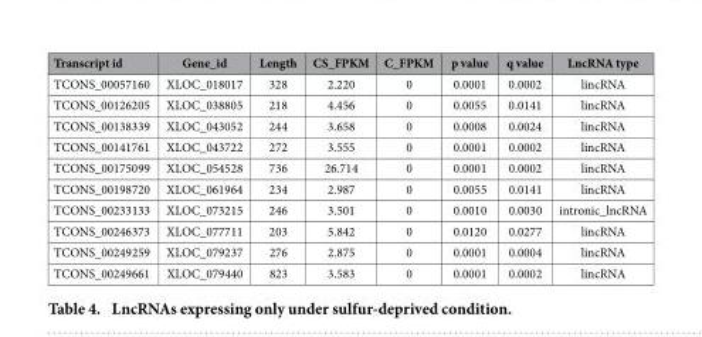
<table><thead><tr><td>Transcript id</td><td>Gene_id</td><td>Length</td><td>CS_FPKM</td><td>C_FPKM</td><td>p value</td><td>q value</td><td>LncRNA type</td></tr></thead><tbody><tr><td>TCONS_00057160</td><td>XLOC_018017</td><td>328</td><td>2.220</td><td>0</td><td>0.0001</td><td>0.0002</td><td>lincRNA</td></tr><tr><td>TCONS_00126205</td><td>XLOC_038805</td><td>218</td><td>4.456</td><td>0</td><td>0.0055</td><td>0.0141</td><td>lincRNA</td></tr><tr><td>TCONS_00138339</td><td>XLOC_043052</td><td>244</td><td>3.658</td><td>0</td><td>0.0008</td><td>0.0024</td><td>lincRNA</td></tr><tr><td>TCONS_00141761</td><td>XLOC_043722</td><td>272</td><td>3.555</td><td>0</td><td>0.0001</td><td>0.0002</td><td>lincRNA</td></tr><tr><td>TCONS_00175099</td><td>XLOC_054528</td><td>736</td><td>26.714</td><td>0</td><td>0.0001</td><td>0.0002</td><td>lincRNA</td></tr><tr><td>TCONS_00198720</td><td>XLOC_061964</td><td>234</td><td>2.987</td><td>0</td><td>0.0055</td><td>0.0141</td><td>lincRNA</td></tr><tr><td>TCONS_00233133</td><td>XLOC_073215</td><td>246</td><td>3.501</td><td>0</td><td>0.0010</td><td>0.0030</td><td>intronic_lncRNA</td></tr><tr><td>TCONS_00246373</td><td>XLOC_077711</td><td>203</td><td>5.842</td><td>0</td><td>0.0120</td><td>0.0277</td><td>lincRNA</td></tr><tr><td>TCONS_00249259</td><td>XLOC_079237</td><td>276</td><td>2.875</td><td>0</td><td>0.0001</td><td>0.0004</td><td>lincRNA</td></tr><tr><td>TCONS_00249661</td><td>XLOC_079440</td><td>823</td><td>3.583</td><td>0</td><td>0.0001</td><td>0.0002</td><td>lincRNA</td></tr></tbody></table>